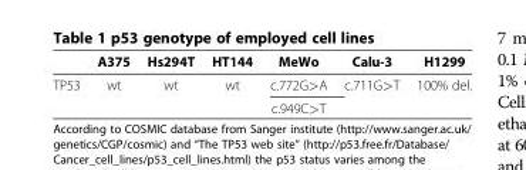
<table><thead><tr><td></td><td>A375</td><td>Hs294T</td><td>HT144</td><td>MeWo</td><td>Calu-3</td><td>H1299</td></tr></thead><tbody><tr><td rowspan="2">TP53</td><td>wt</td><td>wt</td><td>wt</td><td>c.772G&gt;A</td><td>c.711G&gt;T</td><td>100% del.</td></tr><tr><td></td><td></td><td></td><td>c.949C&gt;T</td><td></td><td></td></tr></tbody></table>